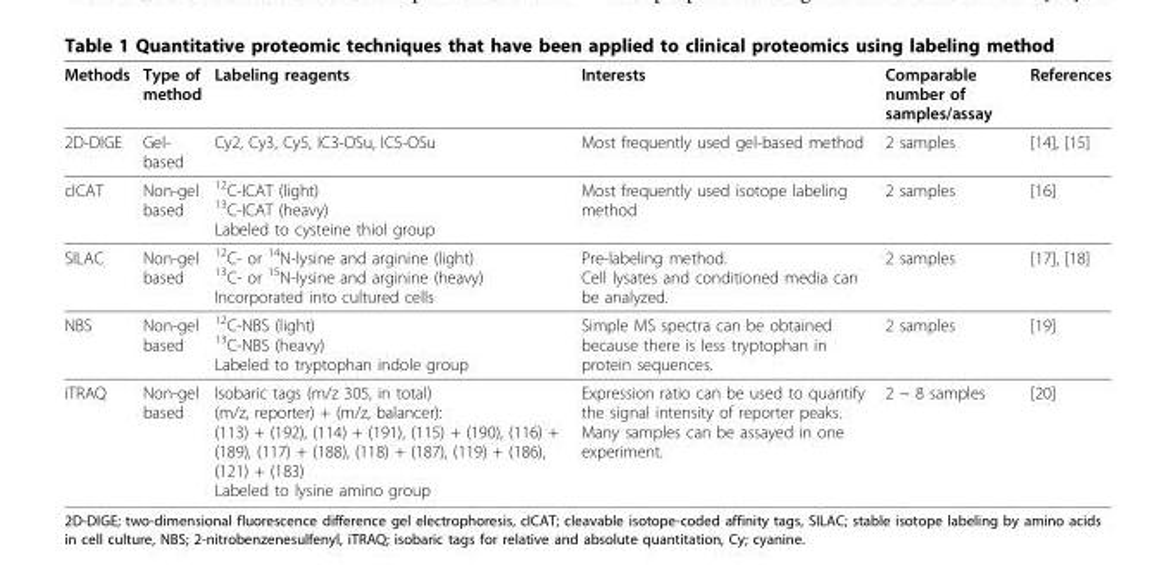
<table><thead><tr><td>Methods</td><td>Type of method</td><td>Labeling reagents</td><td>Interests</td><td>Comparable number of samples/assay</td><td>References</td></tr></thead><tbody><tr><td>2D-DIGE</td><td>Gel- based</td><td>Cy2, Cy3, Cy5, IC3-OSu, IC5-OSu</td><td>Most frequently used gel-based method</td><td>2 samples</td><td>[14], [15]</td></tr><tr><td>cICAT</td><td>Non-gel based</td><td><sup>12</sup>C-ICAT (light) <sup>13</sup>C-ICAT (heavy) Labeled to cysteine thiol group</td><td>Most frequently used isotope labeling method</td><td>2 samples</td><td>[16]</td></tr><tr><td>SILAC</td><td>Non-gel based</td><td><sup>12</sup>C- or <sup>14</sup>N-lysine and arginine (light) <sup>13</sup>C- or <sup>15</sup>N-lysine and arginine (heavy) Incorporated into cultured cells</td><td>Pre-labeling method. Cell lysates and conditioned media can be analyzed.</td><td>2 samples</td><td>[17], [18]</td></tr><tr><td>NBS</td><td>Non-gel based</td><td><sup>12</sup>C-NBS (light) <sup>13</sup>C-NBS (heavy) Labeled to tryptophan indole group</td><td>Simple MS spectra can be obtained because there is less tryptophan in protein sequences.</td><td>2 samples</td><td>[19]</td></tr><tr><td>iTRAQ</td><td>Non-gel based</td><td>Isobaric tags (m/z 305, in total) (m/z, reporter) + (m/z, balancer): (113) + (192), (114) + (191), (115) + (190), (116) + (189), (117) + (188), (118) + (187), (119) + (186), (121) + (183) Labeled to lysine amino group</td><td>Expression ratio can be used to quantify the signal intensity of reporter peaks. Many samples can be assayed in one experiment.</td><td>2 ~ 8 samples</td><td>[20]</td></tr></tbody></table>